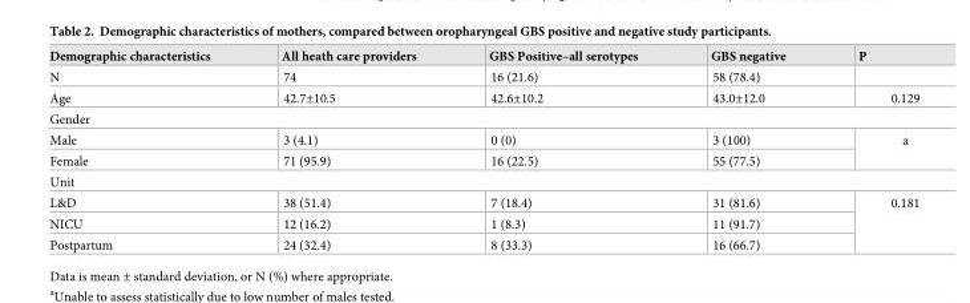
<table><thead><tr><td>Demographic characteristics</td><td>All heath care providers</td><td>GBS Positive–all serotypes</td><td>GBS negative</td><td>P</td></tr></thead><tbody><tr><td>N</td><td>74</td><td>16 (21.6)</td><td>58 (78.4)</td><td></td></tr><tr><td>Age</td><td>42.7±10.5</td><td>42.6±10.2</td><td>43.0±12.0</td><td>0.129</td></tr><tr><td colspan="5">Gender</td></tr><tr><td>Male</td><td>3 (4.1)</td><td>0 (0)</td><td>3 (100)</td><td rowspan="2">a</td></tr><tr><td>Female</td><td>71 (95.9)</td><td>16 (22.5)</td><td>55 (77.5)</td></tr><tr><td colspan="5">Unit</td></tr><tr><td>L&amp;D</td><td>38 (51.4)</td><td>7 (18.4)</td><td>31 (81.6)</td><td rowspan="3">0.181</td></tr><tr><td>NICU</td><td>12 (16.2)</td><td>1 (8.3)</td><td>11 (91.7)</td></tr><tr><td>Postpartum</td><td>24 (32.4)</td><td>8 (33.3)</td><td>16 (66.7)</td></tr></tbody></table>